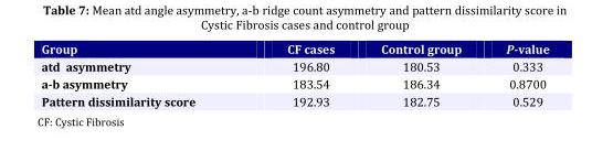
<table><thead><tr><td>Group</td><td>CF cases</td><td>Control group</td><td>P-value</td></tr></thead><tbody><tr><td>atd asymmetry</td><td>196.80</td><td>180.53</td><td>0.333</td></tr><tr><td>a-b asymmetry</td><td>183.54</td><td>186.34</td><td>0.8700</td></tr><tr><td>Pattern dissimilarity score</td><td>192.93</td><td>182.75</td><td>0.529</td></tr></tbody></table>